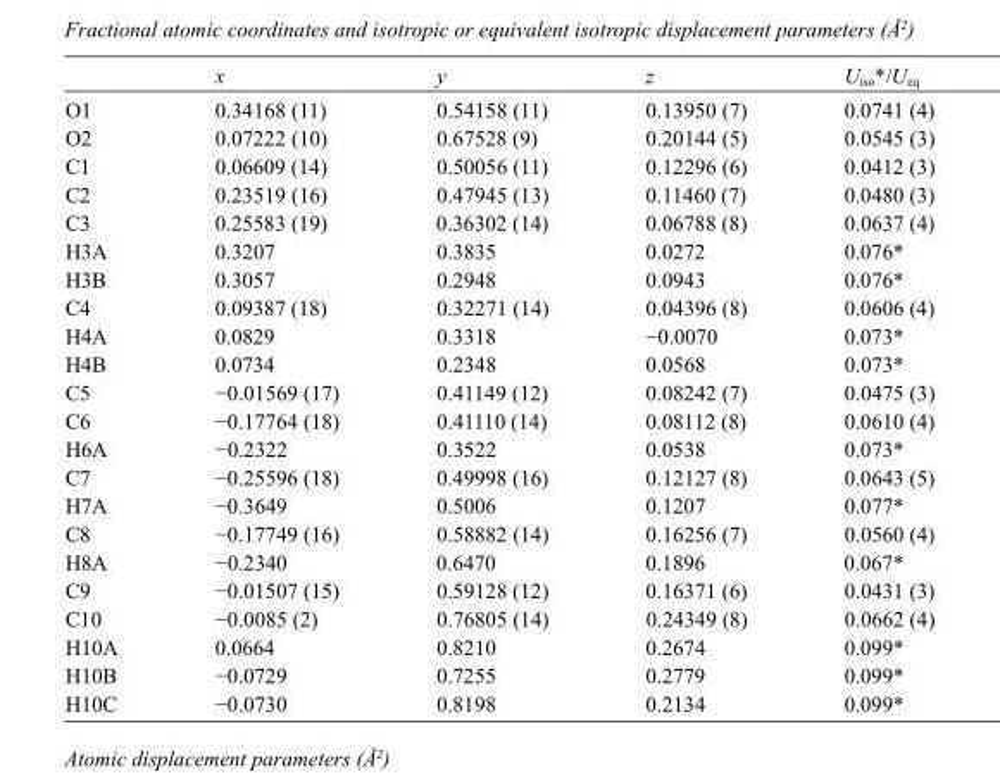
<table><thead><tr><td></td><td>x</td><td>y</td><td>z</td><td>U<sub>iso</sub>*/U<sub>eq</sub></td></tr></thead><tbody><tr><td>O1</td><td>0.34168 (11)</td><td>0.54158 (11)</td><td>0.13950 (7)</td><td>0.0741 (4)</td></tr><tr><td>O2</td><td>0.07222 (10)</td><td>0.67528 (9)</td><td>0.20144 (5)</td><td>0.0545 (3)</td></tr><tr><td>C1</td><td>0.06609 (14)</td><td>0.50056 (11)</td><td>0.12296 (6)</td><td>0.0412 (3)</td></tr><tr><td>C2</td><td>0.23519 (16)</td><td>0.47945 (13)</td><td>0.11460 (7)</td><td>0.0480 (3)</td></tr><tr><td>C3</td><td>0.25583 (19)</td><td>0.36302 (14)</td><td>0.06788 (8)</td><td>0.0637 (4)</td></tr><tr><td>H3A</td><td>0.3207</td><td>0.3835</td><td>0.0272</td><td>0.076*</td></tr><tr><td>H3B</td><td>0.3057</td><td>0.2948</td><td>0.0943</td><td>0.076*</td></tr><tr><td>C4</td><td>0.09387 (18)</td><td>0.32271 (14)</td><td>0.04396 (8)</td><td>0.0606 (4)</td></tr><tr><td>H4A</td><td>0.0829</td><td>0.3318</td><td>−0.0070</td><td>0.073*</td></tr><tr><td>H4B</td><td>0.0734</td><td>0.2348</td><td>0.0568</td><td>0.073*</td></tr><tr><td>C5</td><td>−0.01569 (17)</td><td>0.41149 (12)</td><td>0.08242 (7)</td><td>0.0475 (3)</td></tr><tr><td>C6</td><td>−0.17764 (18)</td><td>0.41110 (14)</td><td>0.08112 (8)</td><td>0.0610 (4)</td></tr><tr><td>H6A</td><td>−0.2322</td><td>0.3522</td><td>0.0538</td><td>0.073*</td></tr><tr><td>C7</td><td>−0.25596 (18)</td><td>0.49998 (16)</td><td>0.12127 (8)</td><td>0.0643 (5)</td></tr><tr><td>H7A</td><td>−0.3649</td><td>0.5006</td><td>0.1207</td><td>0.077*</td></tr><tr><td>C8</td><td>−0.17749 (16)</td><td>0.58882 (14)</td><td>0.16256 (7)</td><td>0.0560 (4)</td></tr><tr><td>H8A</td><td>−0.2340</td><td>0.6470</td><td>0.1896</td><td>0.067*</td></tr><tr><td>C9</td><td>−0.01507 (15)</td><td>0.59128 (12)</td><td>0.16371 (6)</td><td>0.0431 (3)</td></tr><tr><td>C10</td><td>−0.0085 (2)</td><td>0.76805 (14)</td><td>0.24349 (8)</td><td>0.0662 (4)</td></tr><tr><td>H10A</td><td>0.0664</td><td>0.8210</td><td>0.2674</td><td>0.099*</td></tr><tr><td>H10B</td><td>−0.0729</td><td>0.7255</td><td>0.2779</td><td>0.099*</td></tr><tr><td>H10C</td><td>−0.0730</td><td>0.8198</td><td>0.2134</td><td>0.099*</td></tr></tbody></table>